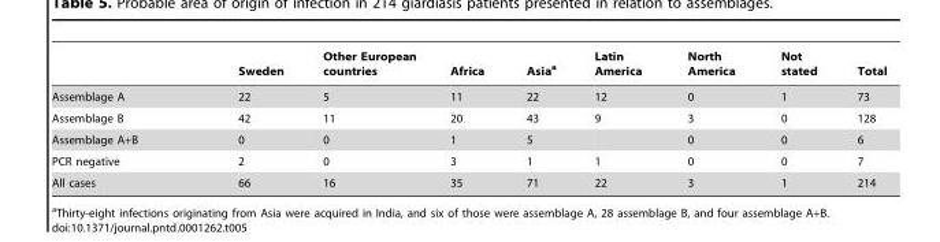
<table><thead><tr><td></td><td>Sweden</td><td>Other European countries</td><td>Africa</td><td>Asia<sup>a</sup></td><td>Latin America</td><td>North America</td><td>Not stated</td><td>Total</td></tr></thead><tbody><tr><td>Assemblage A</td><td>22</td><td>5</td><td>11</td><td>22</td><td>12</td><td>0</td><td>1</td><td>73</td></tr><tr><td>Assemblage B</td><td>42</td><td>11</td><td>20</td><td>43</td><td>9</td><td>3</td><td>0</td><td>128</td></tr><tr><td>Assemblage A+B</td><td>0</td><td>0</td><td>1</td><td>5</td><td></td><td>0</td><td>0</td><td>6</td></tr><tr><td>PCR negative</td><td>2</td><td>0</td><td>3</td><td>1</td><td>1</td><td>0</td><td>0</td><td>7</td></tr><tr><td>All cases</td><td>66</td><td>16</td><td>35</td><td>71</td><td>22</td><td>3</td><td>1</td><td>214</td></tr></tbody></table>